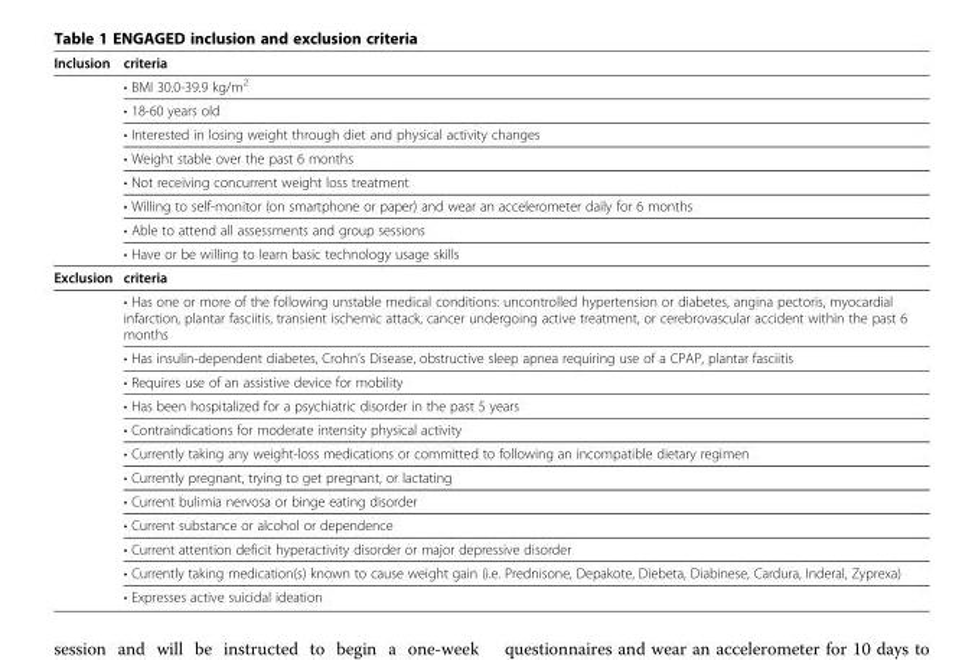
<table><tbody><tr><td rowspan="9">Inclusion</td><td>criteria</td></tr><tr><td>• BMI 30.0-39.9 kg/m<sup>2</sup></td></tr><tr><td>• 18-60 years old</td></tr><tr><td>• Interested in losing weight through diet and physical activity changes</td></tr><tr><td>• Weight stable over the past 6 months</td></tr><tr><td>• Not receiving concurrent weight loss treatment</td></tr><tr><td>• Willing to self-monitor (on smartphone or paper) and wear an accelerometer daily for 6 months</td></tr><tr><td>• Able to attend all assessments and group sessions</td></tr><tr><td>• Have or be willing to learn basic technology usage skills</td></tr><tr><td rowspan="13">Exclusion</td><td>criteria</td></tr><tr><td>• Has one or more of the following unstable medical conditions: uncontrolled hypertension or diabetes, angina pectoris, myocardial infarction, plantar fasciitis, transient ischemic attack, cancer undergoing active treatment, or cerebrovascular accident within the past 6 months</td></tr><tr><td>• Has insulin-dependent diabetes, Crohn’s Disease, obstructive sleep apnea requiring use of a CPAP, plantar fasciitis</td></tr><tr><td>• Requires use of an assistive device for mobility</td></tr><tr><td>• Has been hospitalized for a psychiatric disorder in the past 5 years</td></tr><tr><td>• Contraindications for moderate intensity physical activity</td></tr><tr><td>• Currently taking any weight-loss medications or committed to following an incompatible dietary regimen</td></tr><tr><td>• Currently pregnant, trying to get pregnant, or lactating</td></tr><tr><td>• Current bulimia nervosa or binge eating disorder</td></tr><tr><td>• Current substance or alcohol or dependence</td></tr><tr><td>• Current attention deficit hyperactivity disorder or major depressive disorder</td></tr><tr><td>• Currently taking medication(s) known to cause weight gain (i.e. Prednisone, Depakote, Diebeta, Diabinese, Cardura, Inderal, Zyprexa)</td></tr><tr><td>• Expresses active suicidal ideation</td></tr></tbody></table>